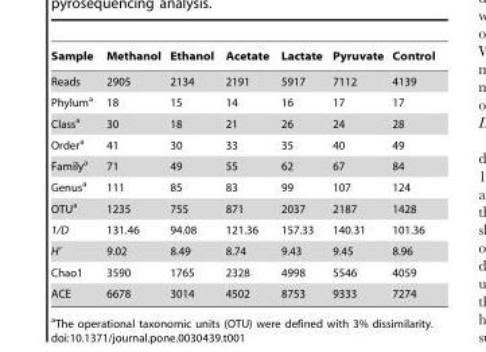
<table><thead><tr><td>Sample</td><td>Methanol</td><td>Ethanol</td><td>Acetate</td><td>Lactate</td><td>Pyruvate</td><td>Control</td></tr></thead><tbody><tr><td>Reads</td><td>2905</td><td>2134</td><td>2191</td><td>5917</td><td>7112</td><td>4139</td></tr><tr><td>Phylum<sup>a</sup></td><td>18</td><td>15</td><td>14</td><td>16</td><td>17</td><td>17</td></tr><tr><td>Class<sup>a</sup></td><td>30</td><td>18</td><td>21</td><td>26</td><td>24</td><td>28</td></tr><tr><td>Order<sup>a</sup></td><td>41</td><td>30</td><td>33</td><td>35</td><td>40</td><td>49</td></tr><tr><td>Family<sup>a</sup></td><td>71</td><td>49</td><td>55</td><td>62</td><td>67</td><td>84</td></tr><tr><td>Genus<sup>a</sup></td><td>111</td><td>85</td><td>83</td><td>99</td><td>107</td><td>124</td></tr><tr><td>OTU<sup>a</sup></td><td>1235</td><td>755</td><td>871</td><td>2037</td><td>2187</td><td>1428</td></tr><tr><td>1/D</td><td>131.46</td><td>94.08</td><td>121.36</td><td>157.33</td><td>140.31</td><td>101.36</td></tr><tr><td>H′</td><td>9.02</td><td>8.49</td><td>8.74</td><td>9.43</td><td>9.45</td><td>8.96</td></tr><tr><td>Chao1</td><td>3590</td><td>1765</td><td>2328</td><td>4998</td><td>5546</td><td>4059</td></tr><tr><td>ACE</td><td>6678</td><td>3014</td><td>4502</td><td>8753</td><td>9333</td><td>7274</td></tr></tbody></table>